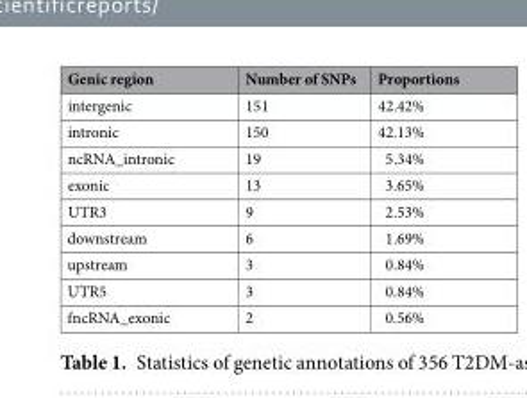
<table><thead><tr><td>Genic region</td><td>Number of SNPs</td><td>Proportions</td></tr></thead><tbody><tr><td>intergenic</td><td>151</td><td>42.42%</td></tr><tr><td>intronic</td><td>150</td><td>42.13%</td></tr><tr><td>ncRNA_intronic</td><td>19</td><td>5.34%</td></tr><tr><td>exonic</td><td>13</td><td>3.65%</td></tr><tr><td>UTR3</td><td>9</td><td>2.53%</td></tr><tr><td>downstream</td><td>6</td><td>1.69%</td></tr><tr><td>upstream</td><td>3</td><td>0.84%</td></tr><tr><td>UTR5</td><td>3</td><td>0.84%</td></tr><tr><td>fncRNA_exonic</td><td>2</td><td>0.56%</td></tr></tbody></table>